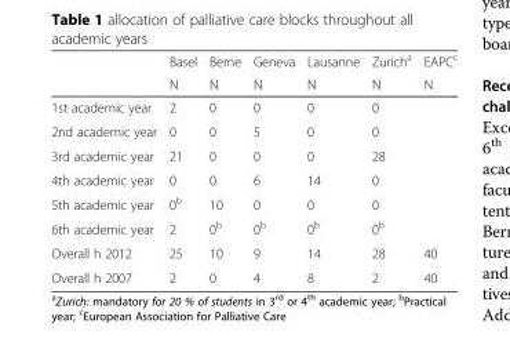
<table><thead><tr><td rowspan="2"></td><td rowspan="2">Basel N</td><td rowspan="2">Berne N</td><td rowspan="2">Geneva N</td><td rowspan="2">Lausanne N</td><td rowspan="2">Zurich<sup>a</sup> N</td><td rowspan="2">EAPC<sup>c</sup> N</td></tr><tr></tr></thead><tbody><tr><td>1st academic year</td><td>2</td><td>0</td><td>0</td><td>0</td><td>0</td><td rowspan="6"></td></tr><tr><td>2nd academic year</td><td>0</td><td>0</td><td>5</td><td>0</td><td>0</td></tr><tr><td>3rd academic year</td><td>21</td><td>0</td><td>0</td><td>0</td><td>28</td></tr><tr><td>4th academic year</td><td>0</td><td>0</td><td>6</td><td>14</td><td>0</td></tr><tr><td>5th academic year</td><td>0<sup>b</sup></td><td>10</td><td>0</td><td>0</td><td>0</td></tr><tr><td>6th academic year</td><td>2</td><td>0<sup>b</sup></td><td>0<sup>b</sup></td><td>0<sup>b</sup></td><td>0<sup>b</sup></td></tr><tr><td>Overall h 2012</td><td>25</td><td>10</td><td>9</td><td>14</td><td>28</td><td>40</td></tr><tr><td>Overall h 2007</td><td>2</td><td>0</td><td>4</td><td>8</td><td>2</td><td>40</td></tr></tbody></table>